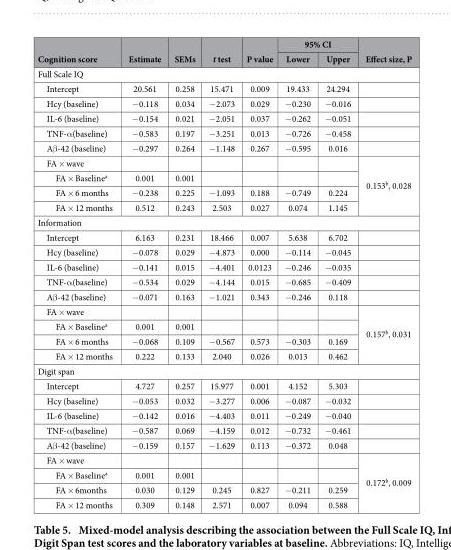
<table><thead><tr><td rowspan="2">Cognition score</td><td rowspan="2">Estimate</td><td rowspan="2">SEMs</td><td rowspan="2">t test</td><td rowspan="2">P value</td><td colspan="2">95% CI</td><td rowspan="2">Effect size, P</td></tr><tr><td>Lower</td><td>Upper</td></tr></thead><tbody><tr><td colspan="8">Full Scale IQ</td></tr><tr><td>Intercept</td><td>20.561</td><td>0.258</td><td>15.471</td><td>0.009</td><td>19.433</td><td>24.294</td><td></td></tr><tr><td>Hcy (baseline)</td><td>− 0.118</td><td>0.034</td><td>− 2.073</td><td>0.029</td><td>− 0.230</td><td>− 0.016</td><td></td></tr><tr><td>IL-6 (baseline)</td><td>− 0.154</td><td>0.021</td><td>− 2.051</td><td>0.037</td><td>− 0.262</td><td>− 0.051</td><td></td></tr><tr><td>TNF-α (baseline)</td><td>− 0.583</td><td>0.197</td><td>− 3.251</td><td>0.013</td><td>− 0.726</td><td>− 0.458</td><td></td></tr><tr><td>Aβ -42 (baseline)</td><td>− 0.297</td><td>0.264</td><td>− 1.148</td><td>0.267</td><td>− 0.595</td><td>0.016</td><td></td></tr><tr><td colspan="7">FA × wave</td><td rowspan="4">0.153<sup>b</sup>, 0.028</td></tr><tr><td>FA × Baseline<sup>a</sup></td><td>0.001</td><td>0.001</td><td></td><td></td><td></td><td></td></tr><tr><td>FA × 6 months</td><td>− 0.238</td><td>0.225</td><td>− 1.093</td><td>0.188</td><td>− 0.749</td><td>0.224</td></tr><tr><td>FA × 12 months</td><td>0.512</td><td>0.243</td><td>2.503</td><td>0.027</td><td>0.074</td><td>1.145</td></tr><tr><td colspan="8">Information</td></tr><tr><td>Intercept</td><td>6.163</td><td>0.231</td><td>18.466</td><td>0.007</td><td>5.638</td><td>6.702</td><td></td></tr><tr><td>Hcy (baseline)</td><td>− 0.078</td><td>0.029</td><td>− 4.873</td><td>0.000</td><td>− 0.114</td><td>− 0.045</td><td></td></tr><tr><td>IL-6 (baseline)</td><td>− 0.141</td><td>0.015</td><td>− 4.401</td><td>0.0123</td><td>− 0.246</td><td>− 0.035</td><td></td></tr><tr><td>TNF-α (baseline)</td><td>− 0.534</td><td>0.029</td><td>− 4.144</td><td>0.015</td><td>− 0.685</td><td>− 0.409</td><td></td></tr><tr><td>Aβ -42 (baseline)</td><td>− 0.071</td><td>0.163</td><td>− 1.021</td><td>0.343</td><td>− 0.246</td><td>0.118</td><td></td></tr><tr><td colspan="7">FA × wave</td><td rowspan="4">0.157<sup>b</sup>, 0.031</td></tr><tr><td>FA × Baseline<sup>a</sup></td><td>0.001</td><td>0.001</td><td></td><td></td><td></td><td></td></tr><tr><td>FA × 6 months</td><td>− 0.068</td><td>0.109</td><td>− 0.567</td><td>0.573</td><td>− 0.303</td><td>0.169</td></tr><tr><td>FA × 12 months</td><td>0.222</td><td>0.133</td><td>2.040</td><td>0.026</td><td>0.013</td><td>0.462</td></tr><tr><td colspan="8">Digit span</td></tr><tr><td>Intercept</td><td>4.727</td><td>0.257</td><td>15.977</td><td>0.001</td><td>4.152</td><td>5.303</td><td></td></tr><tr><td>Hcy (baseline)</td><td>− 0.053</td><td>0.032</td><td>− 3.277</td><td>0.006</td><td>− 0.087</td><td>− 0.032</td><td></td></tr><tr><td>IL-6 (baseline)</td><td>− 0.142</td><td>0.016</td><td>− 4.403</td><td>0.011</td><td>− 0.249</td><td>− 0.040</td><td></td></tr><tr><td>TNF-α (baseline)</td><td>− 0.587</td><td>0.069</td><td>− 4.159</td><td>0.012</td><td>− 0.732</td><td>− 0.461</td><td></td></tr><tr><td>Aβ -42 (baseline)</td><td>− 0.159</td><td>0.157</td><td>− 1.629</td><td>0.113</td><td>− 0.372</td><td>0.048</td><td></td></tr><tr><td colspan="7">FA × wave</td><td rowspan="4">0.172<sup>b</sup>, 0.009</td></tr><tr><td>FA × Baseline<sup>a</sup></td><td>0.001</td><td>0.001</td><td></td><td></td><td></td><td></td></tr><tr><td>FA × 6months</td><td>0.030</td><td>0.129</td><td>0.245</td><td>0.827</td><td>− 0.211</td><td>0.259</td></tr><tr><td>FA × 12 months</td><td>0.309</td><td>0.148</td><td>2.571</td><td>0.007</td><td>0.094</td><td>0.588</td></tr></tbody></table>